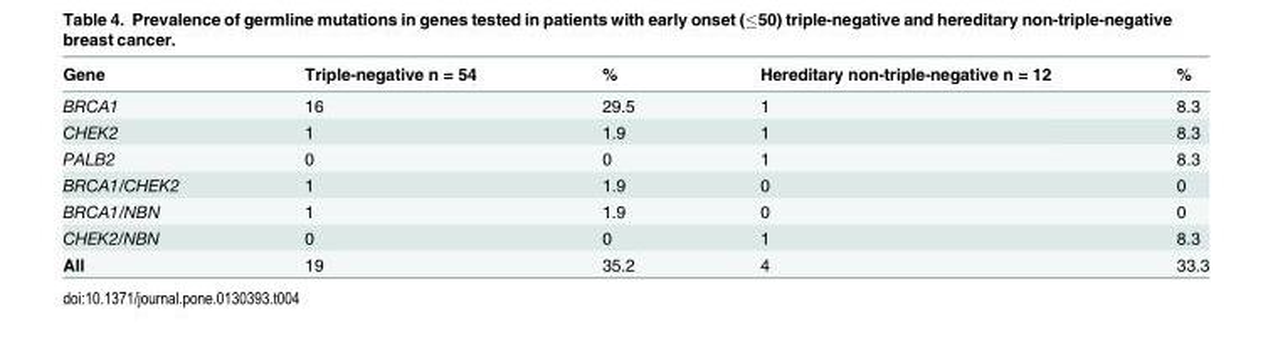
<table><thead><tr><td>Gene</td><td>Triple-negative n = 54</td><td>%</td><td>Hereditary non-triple-negative n = 12</td><td>%</td></tr></thead><tbody><tr><td>BRCA1</td><td>16</td><td>29.5</td><td>1</td><td>8.3</td></tr><tr><td>CHEK2</td><td>1</td><td>1.9</td><td>1</td><td>8.3</td></tr><tr><td>PALB2</td><td>0</td><td>0</td><td>1</td><td>8.3</td></tr><tr><td>BRCA1/CHEK2</td><td>1</td><td>1.9</td><td>0</td><td>0</td></tr><tr><td>BRCA1/NBN</td><td>1</td><td>1.9</td><td>0</td><td>0</td></tr><tr><td>CHEK2/NBN</td><td>0</td><td>0</td><td>1</td><td>8.3</td></tr><tr><td>All</td><td>19</td><td>35.2</td><td>4</td><td>33.3</td></tr></tbody></table>